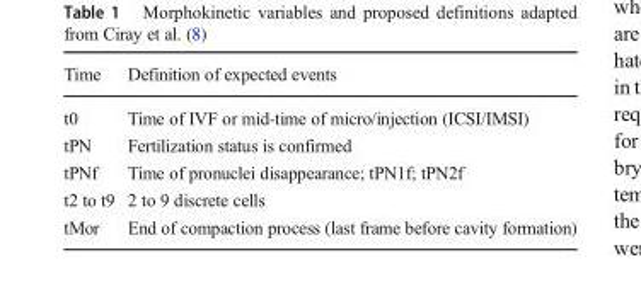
<table><thead><tr><td>Time</td><td>Definition of expected events</td></tr></thead><tbody><tr><td>t0</td><td>Time of IVF or mid-time of micro/injection (ICSI/IMSI)</td></tr><tr><td>tPN</td><td>Fertilization status is confirmed</td></tr><tr><td>tPNf</td><td>Time of pronuclei disappearance; tPN1f; tPN2f</td></tr><tr><td>t2 to t9</td><td>2 to 9 discrete cells</td></tr><tr><td>tMor</td><td>End of compaction process (last frame before cavity formation)</td></tr></tbody></table>